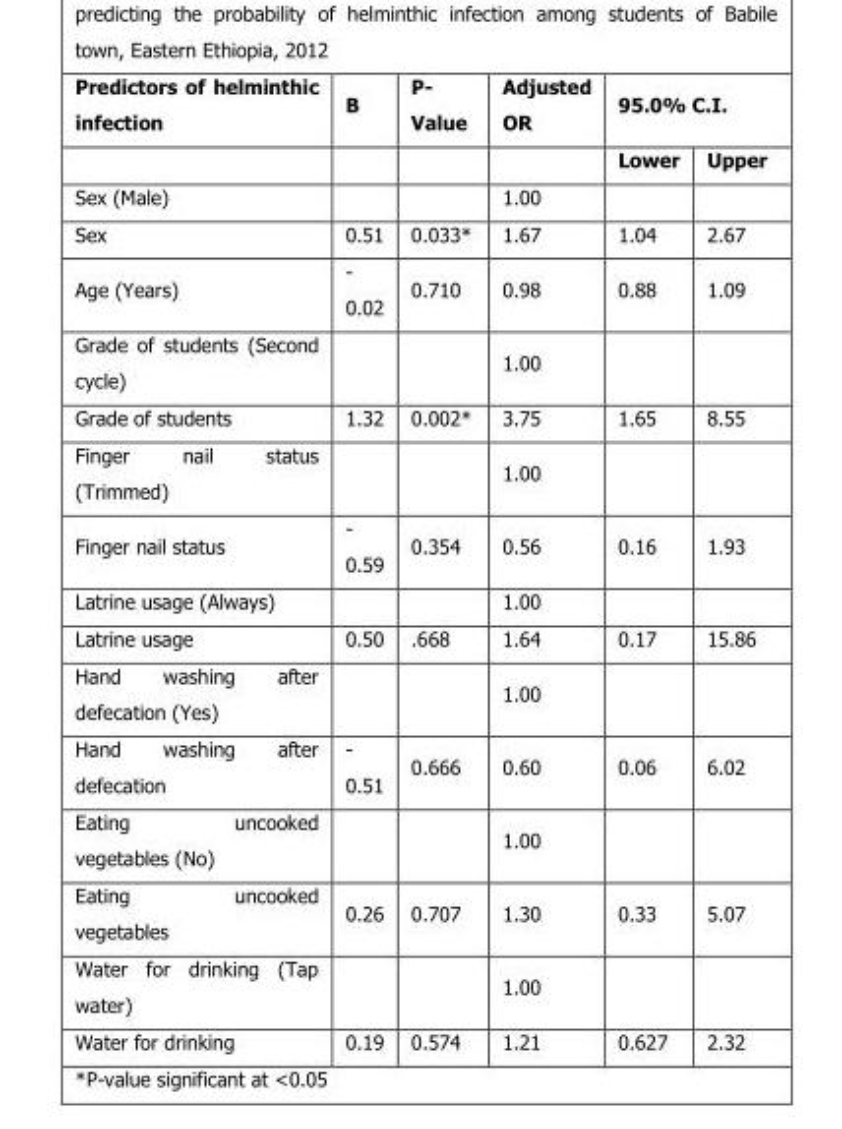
<table><thead><tr><td rowspan="2">Predictors of helminthic infection</td><td rowspan="2">B</td><td rowspan="2">P- Value</td><td rowspan="2">Adjusted OR</td><td colspan="2">95.0% C.I.</td></tr><tr><td>Lower</td><td>Upper</td></tr></thead><tbody><tr><td>Sex (Male)</td><td></td><td></td><td>1.00</td><td></td><td></td></tr><tr><td>Sex</td><td>0.51</td><td>0.033*</td><td>1.67</td><td>1.04</td><td>2.67</td></tr><tr><td>Age (Years)</td><td>- 0.02</td><td>0.710</td><td>0.98</td><td>0.88</td><td>1.09</td></tr><tr><td>Grade of students (Second cycle)</td><td></td><td></td><td>1.00</td><td></td><td></td></tr><tr><td>Grade of students</td><td>1.32</td><td>0.002*</td><td>3.75</td><td>1.65</td><td>8.55</td></tr><tr><td>Finger nail status (Trimmed)</td><td></td><td></td><td>1.00</td><td></td><td></td></tr><tr><td>Finger nail status</td><td>- 0.59</td><td>0.354</td><td>0.56</td><td>0.16</td><td>1.93</td></tr><tr><td>Latrine usage (Always)</td><td></td><td></td><td>1.00</td><td></td><td></td></tr><tr><td>Latrine usage</td><td>0.50</td><td>.668</td><td>1.64</td><td>0.17</td><td>15.86</td></tr><tr><td>Hand washing after defecation (Yes)</td><td></td><td></td><td>1.00</td><td></td><td></td></tr><tr><td>Hand washing after defecation</td><td>- 0.51</td><td>0.666</td><td>0.60</td><td>0.06</td><td>6.02</td></tr><tr><td>Eating uncooked vegetables (No)</td><td></td><td></td><td>1.00</td><td></td><td></td></tr><tr><td>Eating uncooked vegetables</td><td>0.26</td><td>0.707</td><td>1.30</td><td>0.33</td><td>5.07</td></tr><tr><td>Water for drinking (Tap water)</td><td></td><td></td><td>1.00</td><td></td><td></td></tr><tr><td>Water for drinking</td><td>0.19</td><td>0.574</td><td>1.21</td><td>0.627</td><td>2.32</td></tr></tbody></table>